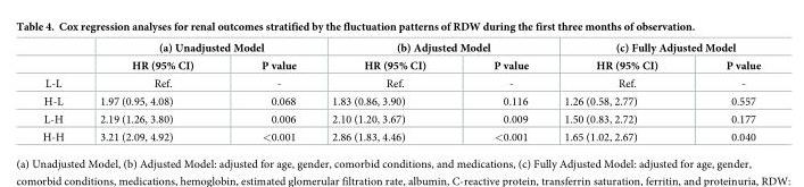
<table><thead><tr><td rowspan="2"></td><td colspan="2">(a) Unadjusted Model</td><td colspan="2">(b) Adjusted Model</td><td colspan="2">(c) Fully Adjusted Model</td></tr><tr><td>HR (95% CI)</td><td>P value</td><td>HR (95% CI)</td><td>P value</td><td>HR (95% CI)</td><td>P value</td></tr></thead><tbody><tr><td>L-L</td><td>Ref.</td><td>-</td><td>Ref.</td><td>-</td><td>Ref.</td><td>-</td></tr><tr><td>H-L</td><td>1.97 (0.95, 4.08)</td><td>0.068</td><td>1.83 (0.86, 3.90)</td><td>0.116</td><td>1.26 (0.58, 2.77)</td><td>0.557</td></tr><tr><td>L-H</td><td>2.19 (1.26, 3.80)</td><td>0.006</td><td>2.10 (1.20, 3.67)</td><td>0.009</td><td>1.50 (0.83, 2.72)</td><td>0.177</td></tr><tr><td>H-H</td><td>3.21 (2.09, 4.92)</td><td>&lt;0.001</td><td>2.86 (1.83, 4.46)</td><td>&lt;0.001</td><td>1.65 (1.02, 2.67)</td><td>0.040</td></tr></tbody></table>